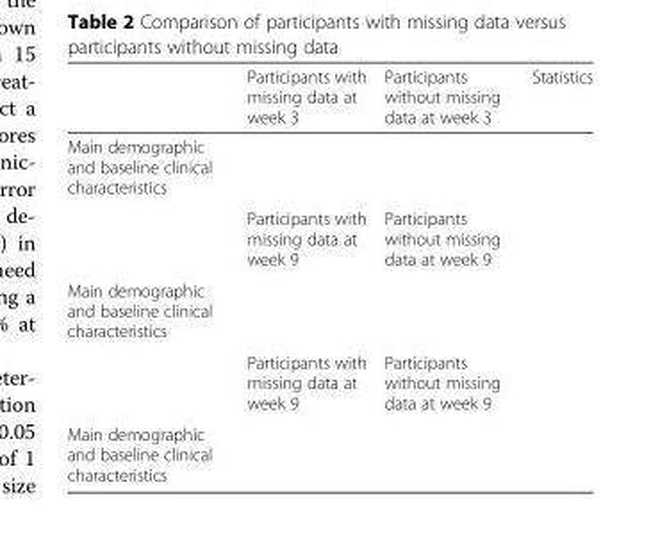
<table><thead><tr><td></td><td>Participants with missing data at week 3</td><td>Participants without missing data at week 3</td><td>Statistics</td></tr></thead><tbody><tr><td colspan="4">Main demographic and baseline clinical characteristics</td></tr><tr><td></td><td>Participants with missing data at week 9</td><td>Participants without missing data at week 9</td><td></td></tr><tr><td colspan="4">Main demographic and baseline clinical characteristics</td></tr><tr><td></td><td>Participants with missing data at week 9</td><td>Participants without missing data at week 9</td><td></td></tr><tr><td>Main demographic and baseline clinical characteristics</td><td></td><td></td><td></td></tr></tbody></table>